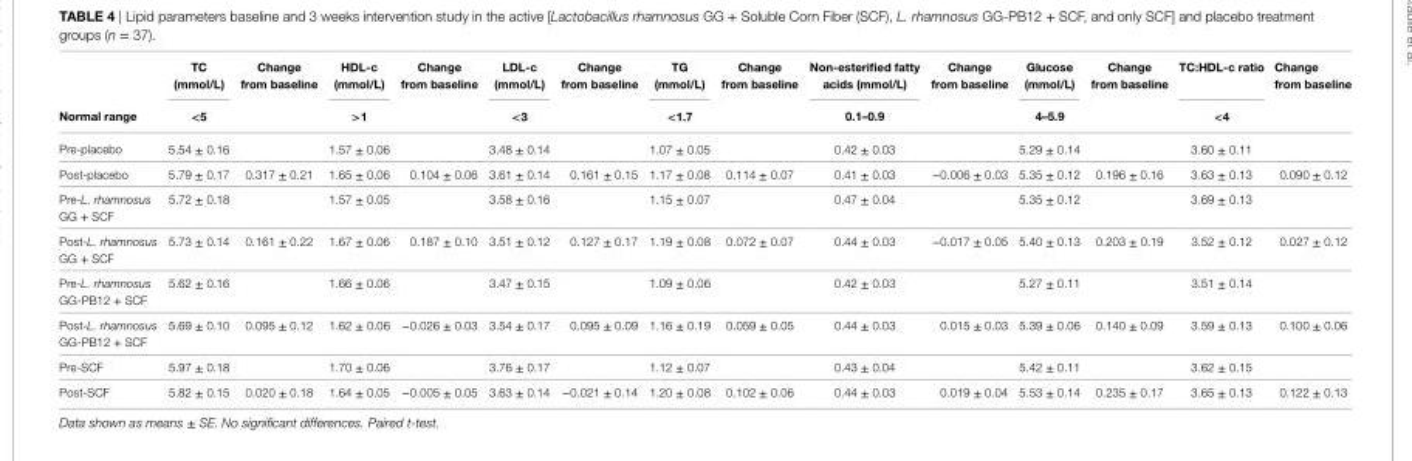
<table><thead><tr><td rowspan="2">normal range</td><td rowspan="2">TC (mmol/l) &lt;5</td><td rowspan="2">Change from baseline</td><td rowspan="2">HDl-c (mmol/l) &gt;1</td><td rowspan="2">Change from baseline</td><td rowspan="2">lDl-c (mmol/l) &lt;3</td><td rowspan="2">Change from baseline</td><td rowspan="2">TG (mmol/l) &lt;1.7</td><td rowspan="2">Change from baseline</td><td rowspan="2">non-esterified fatty acids (mmol/l) 0.1–0.9</td><td rowspan="2">Change from baseline</td><td rowspan="2">Glucose (mmol/l) 4–5.9</td><td rowspan="2">Change from baseline</td><td rowspan="2">TC:HDl-c ratio &lt;4</td><td rowspan="2">Change from baseline</td></tr><tr></tr></thead><tbody><tr><td>Pre-placebo</td><td>5.54 ± 0.16</td><td></td><td>1.57 ± 0.06</td><td></td><td>3.48 ± 0.14</td><td></td><td>1.07 ± 0.05</td><td></td><td>0.42 ± 0.03</td><td></td><td>5.29 ± 0.14</td><td></td><td>3.60 ± 0.11</td><td></td></tr><tr><td>Post-placebo</td><td>5.79 ± 0.17</td><td>0.317 ± 0.21</td><td>1.65 ± 0.06</td><td>0.104 ± 0.06</td><td>3.61 ± 0.14</td><td>0.161 ± 0.15</td><td>1.17 ± 0.08</td><td>0.114 ± 0.07</td><td>0.41 ± 0.03</td><td>−0.006 ± 0.03</td><td>5.35 ± 0.12</td><td>0.196 ± 0.16</td><td>3.63 ± 0.13</td><td>0.090 ± 0.12</td></tr><tr><td>Pre-L. rhamnosus GG + SCF</td><td>5.72 ± 0.18</td><td></td><td>1.57 ± 0.05</td><td></td><td>3.58 ± 0.16</td><td></td><td>1.15 ± 0.07</td><td></td><td>0.47 ± 0.04</td><td></td><td>5.35 ± 0.12</td><td></td><td>3.69 ± 0.13</td><td></td></tr><tr><td>Post-L. rhamnosus GG + SCF</td><td>5.73 ± 0.14</td><td>0.161 ± 0.22</td><td>1.67 ± 0.06</td><td>0.187 ± 0.10</td><td>3.51 ± 0.12</td><td>0.127 ± 0.17</td><td>1.19 ± 0.08</td><td>0.072 ± 0.07</td><td>0.44 ± 0.03</td><td>−0.017 ± 0.05</td><td>5.40 ± 0.13</td><td>0.203 ± 0.19</td><td>3.52 ± 0.12</td><td>0.027 ± 0.12</td></tr><tr><td>Pre-L. rhamnosus GG-PB12 + SCF</td><td>5.62 ± 0.16</td><td></td><td>1.66 ± 0.06</td><td></td><td>3.47 ± 0.15</td><td></td><td>1.09 ± 0.06</td><td></td><td>0.42 ± 0.03</td><td></td><td>5.27 ± 0.11</td><td></td><td>3.51 ± 0.14</td><td></td></tr><tr><td>Post-L. rhamnosus GG-PB12 + SCF</td><td>5.69 ± 0.10</td><td>0.095 ± 0.12</td><td>1.62 ± 0.06</td><td>−0.026 ± 0.03</td><td>3.54 ± 0.17</td><td>0.095 ± 0.09</td><td>1.16 ± 0.19</td><td>0.059 ± 0.05</td><td>0.44 ± 0.03</td><td>0.015 ± 0.03</td><td>5.39 ± 0.06</td><td>0.140 ± 0.09</td><td>3.59 ± 0.13</td><td>0.100 ± 0.06</td></tr><tr><td>Pre-SCF</td><td>5.97 ± 0.18</td><td></td><td>1.70 ± 0.06</td><td></td><td>3.76 ± 0.17</td><td></td><td>1.12 ± 0.07</td><td></td><td>0.43 ± 0.04</td><td></td><td>5.42 ± 0.11</td><td></td><td>3.62 ± 0.15</td><td></td></tr><tr><td>Post-SCF</td><td>5.82 ± 0.15</td><td>0.020 ± 0.18</td><td>1.64 ± 0.05</td><td>−0.005 ± 0.05</td><td>3.63 ± 0.14</td><td>−0.021 ± 0.14</td><td>1.20 ± 0.08</td><td>0.102 ± 0.06</td><td>0.44 ± 0.03</td><td>0.019 ± 0.04</td><td>5.53 ± 0.14</td><td>0.235 ± 0.17</td><td>3.65 ± 0.13</td><td>0.122 ± 0.13</td></tr></tbody></table>